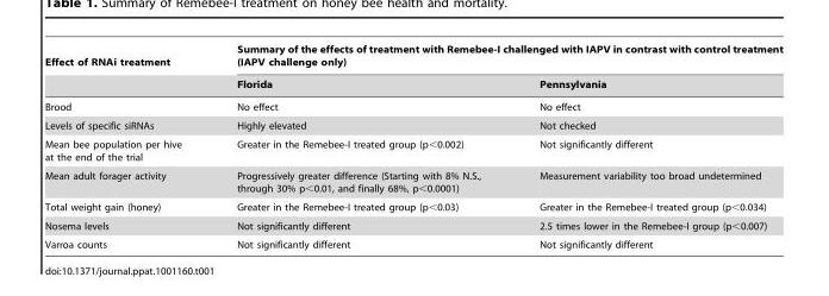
<table><thead><tr><td rowspan="2">Effect of RNAi treatment</td><td colspan="2">Summary of the effects of treatment with Remebee-I challenged with IAPV in contrast with control treatment (IAPV challenge only)</td></tr><tr><td>Florida</td><td>Pennsylvania</td></tr></thead><tbody><tr><td>Brood</td><td>No effect</td><td>No effect</td></tr><tr><td>Levels of specific siRNAs</td><td>Highly elevated</td><td>Not checked</td></tr><tr><td>Mean bee population per hive at the end of the trial</td><td>Greater in the Remebee-I treated group (p&lt;0.002)</td><td>Not significantly different</td></tr><tr><td>Mean adult forager activity</td><td>Progressively greater difference (Starting with 8% N.S., through 30% p&lt;0.01, and finally 68%, p&lt;0.0001)</td><td>Measurement variability too broad undetermined</td></tr><tr><td>Total weight gain (honey)</td><td>Greater in the Remebee-I treated group (p&lt;0.03)</td><td>Greater in the Remebee-I treated group (p&lt;0.034)</td></tr><tr><td>Nosema levels</td><td>Not significantly different</td><td>2.5 times lower in the Remebee-I group (p&lt;0.007)</td></tr><tr><td>Varroa counts</td><td>Not significantly different</td><td>Not significantly different</td></tr></tbody></table>